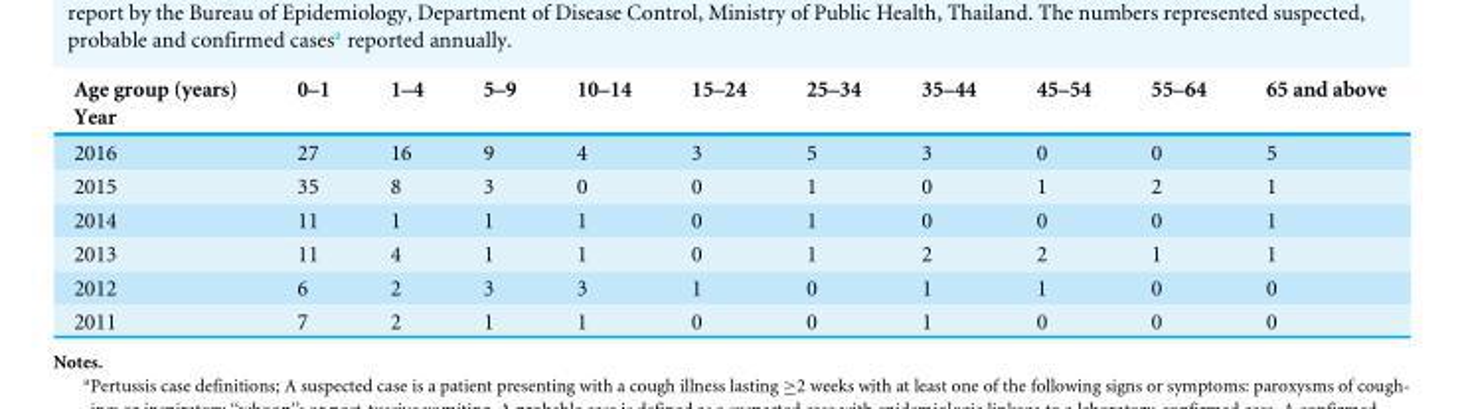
<table><thead><tr><td rowspan="2">Age group (years) Year</td><td rowspan="2">0–1</td><td rowspan="2">1–4</td><td rowspan="2">5–9</td><td rowspan="2">10–14</td><td rowspan="2">15–24</td><td rowspan="2">25–34</td><td rowspan="2">35–44</td><td rowspan="2">45–54</td><td rowspan="2">55–64</td><td rowspan="2">65 and above</td></tr><tr></tr></thead><tbody><tr><td>2016</td><td>27</td><td>16</td><td>9</td><td>4</td><td>3</td><td>5</td><td>3</td><td>0</td><td>0</td><td>5</td></tr><tr><td>2015</td><td>35</td><td>8</td><td>3</td><td>0</td><td>0</td><td>1</td><td>0</td><td>1</td><td>2</td><td>1</td></tr><tr><td>2014</td><td>11</td><td>1</td><td>1</td><td>1</td><td>0</td><td>1</td><td>0</td><td>0</td><td>0</td><td>1</td></tr><tr><td>2013</td><td>11</td><td>4</td><td>1</td><td>1</td><td>0</td><td>1</td><td>2</td><td>2</td><td>1</td><td>1</td></tr><tr><td>2012</td><td>6</td><td>2</td><td>3</td><td>3</td><td>1</td><td>0</td><td>1</td><td>1</td><td>0</td><td>0</td></tr><tr><td>2011</td><td>7</td><td>2</td><td>1</td><td>1</td><td>0</td><td>0</td><td>1</td><td>0</td><td>0</td><td>0</td></tr></tbody></table>